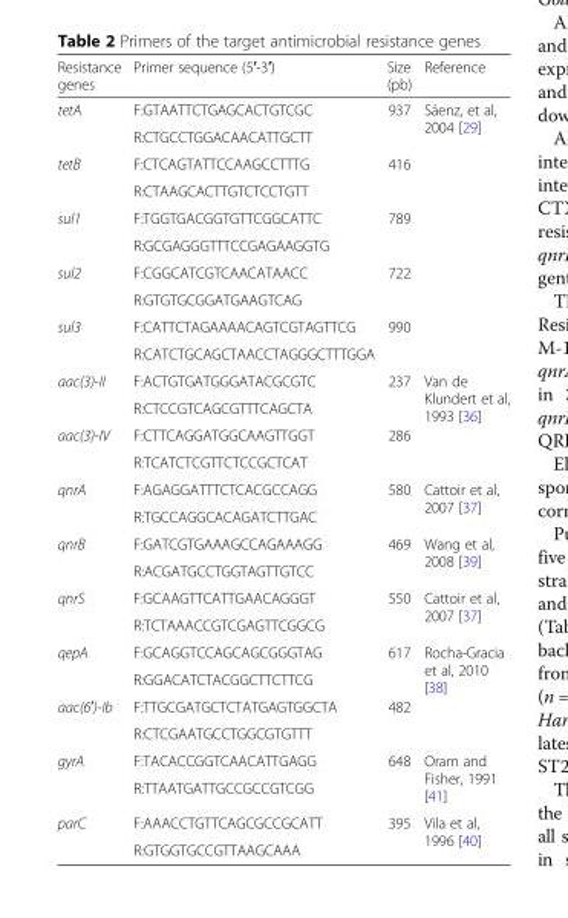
<table><thead><tr><td>Resistance genes</td><td>Primer sequence (5′-3′)</td><td>Size (pb)</td><td>Reference</td></tr></thead><tbody><tr><td rowspan="2">tetA</td><td>F:GTAATTCTGAGCACTGTCGC</td><td rowspan="2">937</td><td rowspan="10">Sáenz, et al, 2004 [29]</td></tr><tr><td>R:CTGCCTGGACAACATTGCTT</td></tr><tr><td rowspan="2">tetB</td><td>F:CTCAGTATTCCAAGCCTTTG</td><td rowspan="2">416</td></tr><tr><td>R:CTAAGCACTTGTCTCCTGTT</td></tr><tr><td rowspan="2">sul1</td><td>F:TGGTGACGGTGTTCGGCATTC</td><td rowspan="2">789</td></tr><tr><td>R:GCGAGGGTTTCCGAGAAGGTG</td></tr><tr><td rowspan="2">sul2</td><td>F:CGGCATCGTCAACATAACC</td><td rowspan="2">722</td></tr><tr><td>R:GTGTGCGGATGAAGTCAG</td></tr><tr><td rowspan="2">sul3</td><td>F:CATTCTAGAAAACAGTCGTAGTTCG</td><td rowspan="2">990</td></tr><tr><td>R:CATCTGCAGCTAACCTAGGGCTTTGGA</td></tr><tr><td rowspan="2">aac(3)-II</td><td>F:ACTGTGATGGGATACGCGTC</td><td rowspan="2">237</td><td rowspan="4">Van de Klundert et al, 1993 [36]</td></tr><tr><td>R:CTCCGTCAGCGTTTCAGCTA</td></tr><tr><td rowspan="2">aac(3)-IV</td><td>F:CTTCAGGATGGCAAGTTGGT</td><td rowspan="2">286</td></tr><tr><td>R:TCATCTCGTTCTCCGCTCAT</td></tr><tr><td rowspan="2">qnrA</td><td>F:AGAGGATTTCTCACGCCAGG</td><td rowspan="2">580</td><td rowspan="2">Cattoir et al, 2007 [37]</td></tr><tr><td>R:TGCCAGGCACAGATCTTGAC</td></tr><tr><td rowspan="2">qnrB</td><td>F:GATCGTGAAAGCCAGAAAGG</td><td rowspan="2">469</td><td rowspan="2">Wang et al, 2008 [39]</td></tr><tr><td>R:ACGATGCCTGGTAGTTGTCC</td></tr><tr><td rowspan="2">qnrS</td><td>F:GCAAGTTCATTGAACAGGGT</td><td rowspan="2">550</td><td rowspan="2">Cattoir et al, 2007 [37]</td></tr><tr><td>R:TCTAAACCGTCGAGTTCGGCG</td></tr><tr><td rowspan="2">qepA</td><td>F:GCAGGTCCAGCAGCGGGTAG</td><td rowspan="2">617</td><td rowspan="4">Rocha-Gracia et al, 2010 [38]</td></tr><tr><td>R:GGACATCTACGGCTTCTTCG</td></tr><tr><td rowspan="2">aac(6′)-Ib</td><td>F:TTGCGATGCTCTATGAGTGGCTA</td><td rowspan="2">482</td></tr><tr><td>R:CTCGAATGCCTGGCGTGTTT</td></tr><tr><td rowspan="2">gyrA</td><td>F:TACACCGGTCAACATTGAGG</td><td rowspan="2">648</td><td rowspan="2">Oram and Fisher, 1991 [41]</td></tr><tr><td>R:TTAATGATTGCCGCCGTCGG</td></tr><tr><td rowspan="2">parC</td><td>F:AAACCTGTTCAGCGCCGCATT</td><td rowspan="2">395</td><td rowspan="2">Vila et al, 1996 [40]</td></tr><tr><td>R:GTGGTGCCGTTAAGCAAA</td></tr></tbody></table>